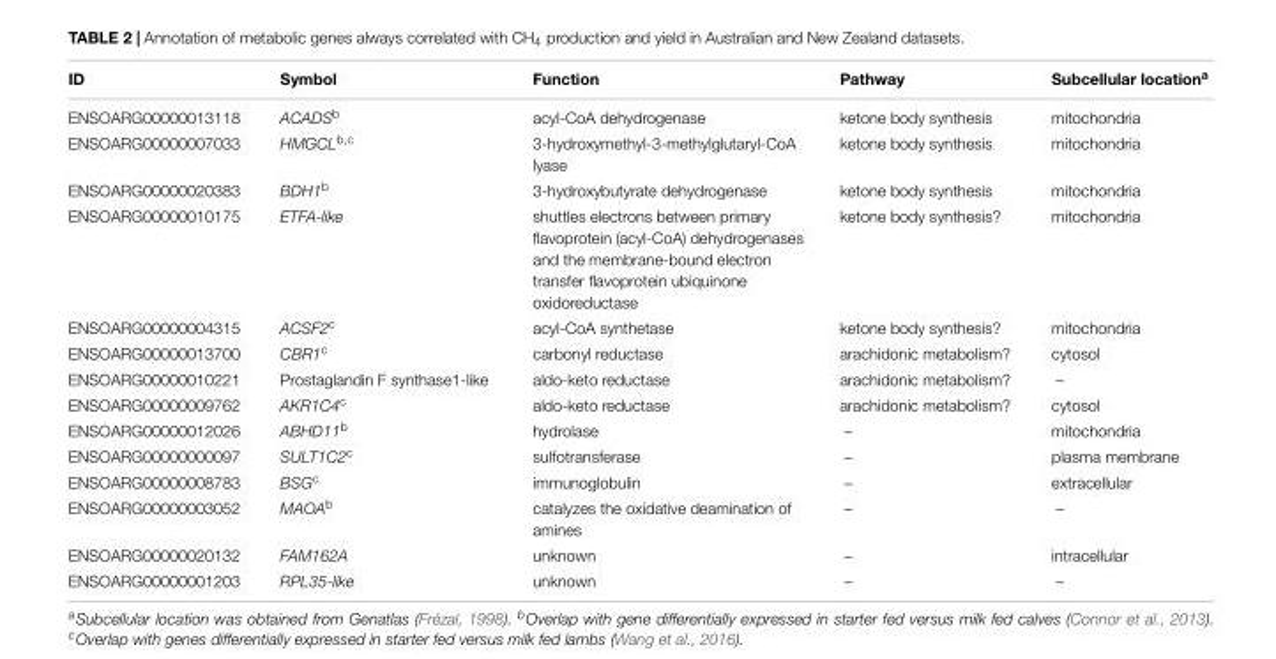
<table><thead><tr><td>ID</td><td>Symbol</td><td>Function</td><td>Pathway</td><td>Subcellular location<sup>a</sup></td></tr></thead><tbody><tr><td>ENSOARG00000013118</td><td>ACADS<sup>b</sup></td><td>acyl-CoA dehydrogenase</td><td>ketone body synthesis</td><td>mitochondria</td></tr><tr><td>ENSOARG00000007033</td><td>HMGCL<sup>b,c</sup></td><td>3-hydroxymethyl-3-methylglutaryl-CoA lyase</td><td>ketone body synthesis</td><td>mitochondria</td></tr><tr><td>ENSOARG00000020383</td><td>BDH1<sup>b</sup></td><td>3-hydroxybutyrate dehydrogenase</td><td>ketone body synthesis</td><td>mitochondria</td></tr><tr><td>ENSOARG00000010175</td><td>ETFA-like</td><td>shuttles electrons between primary flavoprotein (acyl-CoA) dehydrogenases and the membrane-bound electron transfer flavoprotein ubiquinone oxidoreductase</td><td>ketone body synthesis?</td><td>mitochondria</td></tr><tr><td>ENSOARG00000004315</td><td>ACSF2<sup>c</sup></td><td>acyl-CoA synthetase</td><td>ketone body synthesis?</td><td>mitochondria</td></tr><tr><td>ENSOARG00000013700</td><td>CBR1<sup>c</sup></td><td>carbonyl reductase</td><td>arachidonic metabolism?</td><td>cytosol</td></tr><tr><td>ENSOARG00000010221</td><td>Prostaglandin F synthase1-like</td><td>aldo-keto reductase</td><td>arachidonic metabolism?</td><td>–</td></tr><tr><td>ENSOARG00000009762</td><td>AKR1C4<sup>c</sup></td><td>aldo-keto reductase</td><td>arachidonic metabolism?</td><td>cytosol</td></tr><tr><td>ENSOARG00000012026</td><td>ABHD11<sup>b</sup></td><td>hydrolase</td><td>–</td><td>mitochondria</td></tr><tr><td>ENSOARG00000000097</td><td>SULT1C2<sup>c</sup></td><td>sulfotransferase</td><td>–</td><td>plasma membrane</td></tr><tr><td>ENSOARG00000008783</td><td>BSG<sup>c</sup></td><td>immunoglobulin</td><td>–</td><td>extracellular</td></tr><tr><td>ENSOARG00000003052</td><td>MAOA<sup>b</sup></td><td>catalyzes the oxidative deamination of amines</td><td>–</td><td>–</td></tr><tr><td>ENSOARG00000020132</td><td>FAM162A</td><td>unknown</td><td>–</td><td>intracellular</td></tr><tr><td>ENSOARG00000001203</td><td>RPL35-like</td><td>unknown</td><td>–</td><td>–</td></tr></tbody></table>